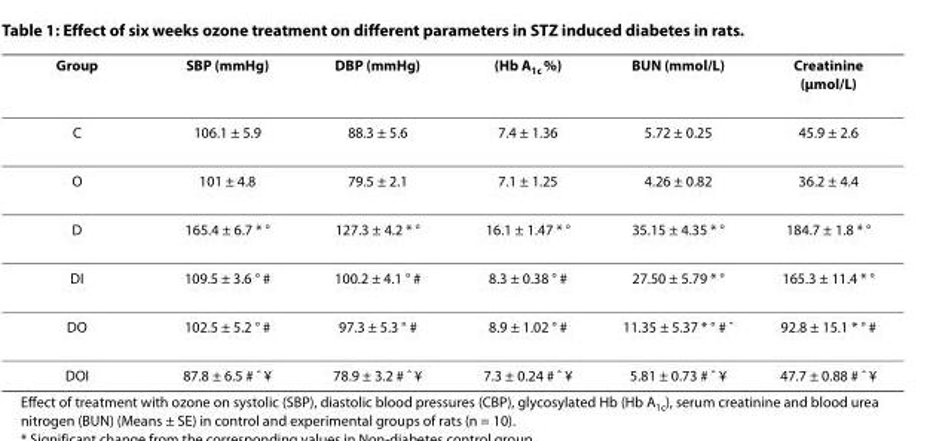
<table><thead><tr><td>Group</td><td>SBP (mmHg)</td><td>DBP (mmHg)</td><td>(Hb A<sub>1c</sub> %)</td><td>BUN (mmol/L)</td><td>Creatinine (μmol/L)</td></tr></thead><tbody><tr><td>C</td><td>106.1 ± 5.9</td><td>88.3 ± 5.6</td><td>7.4 ± 1.36</td><td>5.72 ± 0.25</td><td>45.9 ± 2.6</td></tr><tr><td>O</td><td>101 ± 4.8</td><td>79.5 ± 2.1</td><td>7.1 ± 1.25</td><td>4.26 ± 0.82</td><td>36.2 ± 4.4</td></tr><tr><td>D</td><td>165.4 ± 6.7 * °</td><td>127.3 ± 4.2 * °</td><td>16.1 ± 1.47 * °</td><td>35.15 ± 4.35 * °</td><td>184.7 ± 1.8 * °</td></tr><tr><td>DI</td><td>109.5 ± 3.6 ° #</td><td>100.2 ± 4.1 ° #</td><td>8.3 ± 0.38 ° #</td><td>27.50 ± 5.79 * °</td><td>165.3 ± 11.4 * °</td></tr><tr><td>DO</td><td>102.5 ± 5.2 ° #</td><td>97.3 ± 5.3 ° #</td><td>8.9 ± 1.02 ° #</td><td>11.35 ± 5.37 * ° # ˆ</td><td>92.8 ± 15.1 * ° #</td></tr><tr><td>DOI</td><td>87.8 ± 6.5 # ˆ ¥</td><td>78.9 ± 3.2 # ˆ ¥</td><td>7.3 ± 0.24 # ˆ ¥</td><td>5.81 ± 0.73 # ˆ ¥</td><td>47.7 ± 0.88 # ˆ ¥</td></tr></tbody></table>